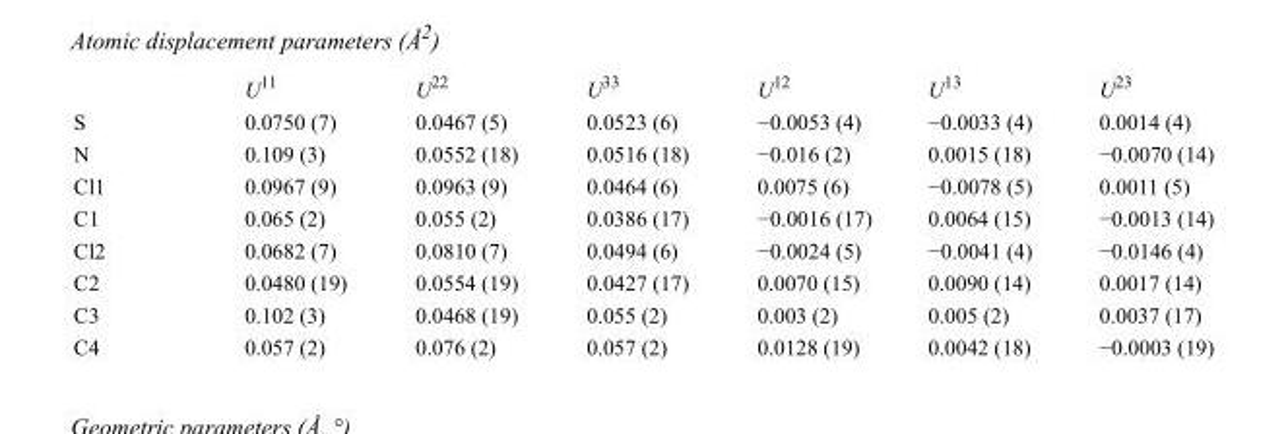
<table><thead><tr><td></td><td>U<sup>11</sup></td><td>U<sup>22</sup></td><td>U<sup>33</sup></td><td>U<sup>12</sup></td><td>U<sup>13</sup></td><td>U<sup>23</sup></td></tr></thead><tbody><tr><td>S</td><td>0.0750 (7)</td><td>0.0467 (5)</td><td>0.0523 (6)</td><td>−0.0053 (4)</td><td>−0.0033 (4)</td><td>0.0014 (4)</td></tr><tr><td>N</td><td>0.109 (3)</td><td>0.0552 (18)</td><td>0.0516 (18)</td><td>−0.016 (2)</td><td>0.0015 (18)</td><td>−0.0070 (14)</td></tr><tr><td>Cl1</td><td>0.0967 (9)</td><td>0.0963 (9)</td><td>0.0464 (6)</td><td>0.0075 (6)</td><td>−0.0078 (5)</td><td>0.0011 (5)</td></tr><tr><td>C1</td><td>0.065 (2)</td><td>0.055 (2)</td><td>0.0386 (17)</td><td>−0.0016 (17)</td><td>0.0064 (15)</td><td>−0.0013 (14)</td></tr><tr><td>Cl2</td><td>0.0682 (7)</td><td>0.0810 (7)</td><td>0.0494 (6)</td><td>−0.0024 (5)</td><td>−0.0041 (4)</td><td>−0.0146 (4)</td></tr><tr><td>C2</td><td>0.0480 (19)</td><td>0.0554 (19)</td><td>0.0427 (17)</td><td>0.0070 (15)</td><td>0.0090 (14)</td><td>0.0017 (14)</td></tr><tr><td>C3</td><td>0.102 (3)</td><td>0.0468 (19)</td><td>0.055 (2)</td><td>0.003 (2)</td><td>0.005 (2)</td><td>0.0037 (17)</td></tr><tr><td>C4</td><td>0.057 (2)</td><td>0.076 (2)</td><td>0.057 (2)</td><td>0.0128 (19)</td><td>0.0042 (18)</td><td>−0.0003 (19)</td></tr></tbody></table>